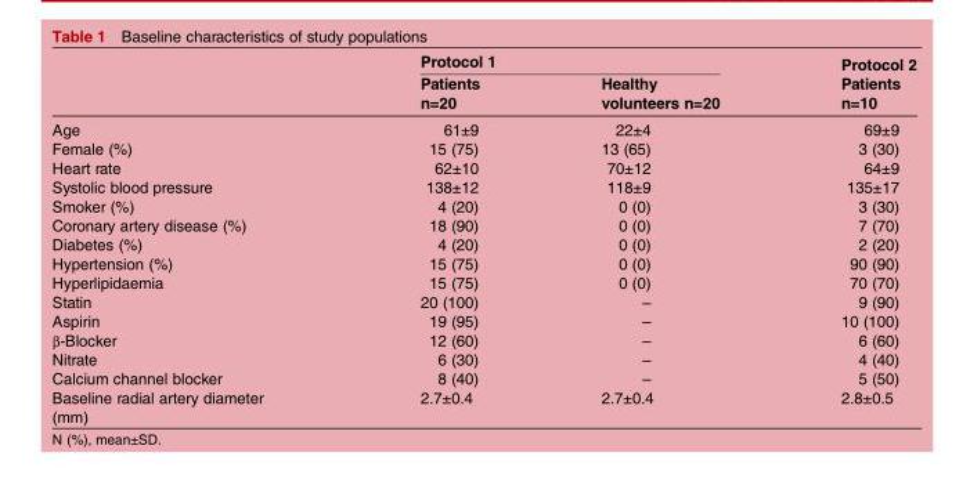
<table><thead><tr><td rowspan="2"></td><td colspan="2">Protocol 1</td><td rowspan="2">Protocol 2 Patients n=10</td></tr><tr><td>Patients n=20</td><td>Healthy volunteers n=20</td></tr></thead><tbody><tr><td>Age</td><td>61±9</td><td>22±4</td><td>69±9</td></tr><tr><td>Female (%)</td><td>15 (75)</td><td>13 (65)</td><td>3 (30)</td></tr><tr><td>Heart rate</td><td>62±10</td><td>70±12</td><td>64±9</td></tr><tr><td>Systolic blood pressure</td><td>138±12</td><td>118±9</td><td>135±17</td></tr><tr><td>Smoker (%)</td><td>4 (20)</td><td>0 (0)</td><td>3 (30)</td></tr><tr><td>Coronary artery disease (%)</td><td>18 (90)</td><td>0 (0)</td><td>7 (70)</td></tr><tr><td>Diabetes (%)</td><td>4 (20)</td><td>0 (0)</td><td>2 (20)</td></tr><tr><td>Hypertension (%)</td><td>15 (75)</td><td>0 (0)</td><td>90 (90)</td></tr><tr><td>Hyperlipidaemia</td><td>15 (75)</td><td>0 (0)</td><td>70 (70)</td></tr><tr><td>Statin</td><td>20 (100)</td><td>–</td><td>9 (90)</td></tr><tr><td>Aspirin</td><td>19 (95)</td><td>–</td><td>10 (100)</td></tr><tr><td>β-Blocker</td><td>12 (60)</td><td>–</td><td>6 (60)</td></tr><tr><td>Nitrate</td><td>6 (30)</td><td>–</td><td>4 (40)</td></tr><tr><td>Calcium channel blocker</td><td>8 (40)</td><td>–</td><td>5 (50)</td></tr><tr><td>Baseline radial artery diameter (mm)</td><td>2.7±0.4</td><td>2.7±0.4</td><td>2.8±0.5</td></tr></tbody></table>